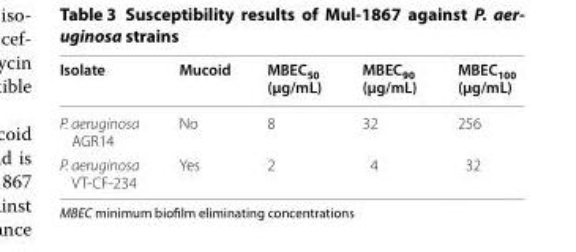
<table><thead><tr><td>Isolate</td><td>Mucoid</td><td>MBEC<sub>50</sub> (µg/mL)</td><td>MBEC<sub>90</sub> (µg/mL)</td><td>MBEC<sub>100</sub> (µg/mL)</td></tr></thead><tbody><tr><td>P. aeruginosa AGR14</td><td>No</td><td>8</td><td>32</td><td>256</td></tr><tr><td>P. aeruginosa VT-CF-234</td><td>Yes</td><td>2</td><td>4</td><td>32</td></tr></tbody></table>